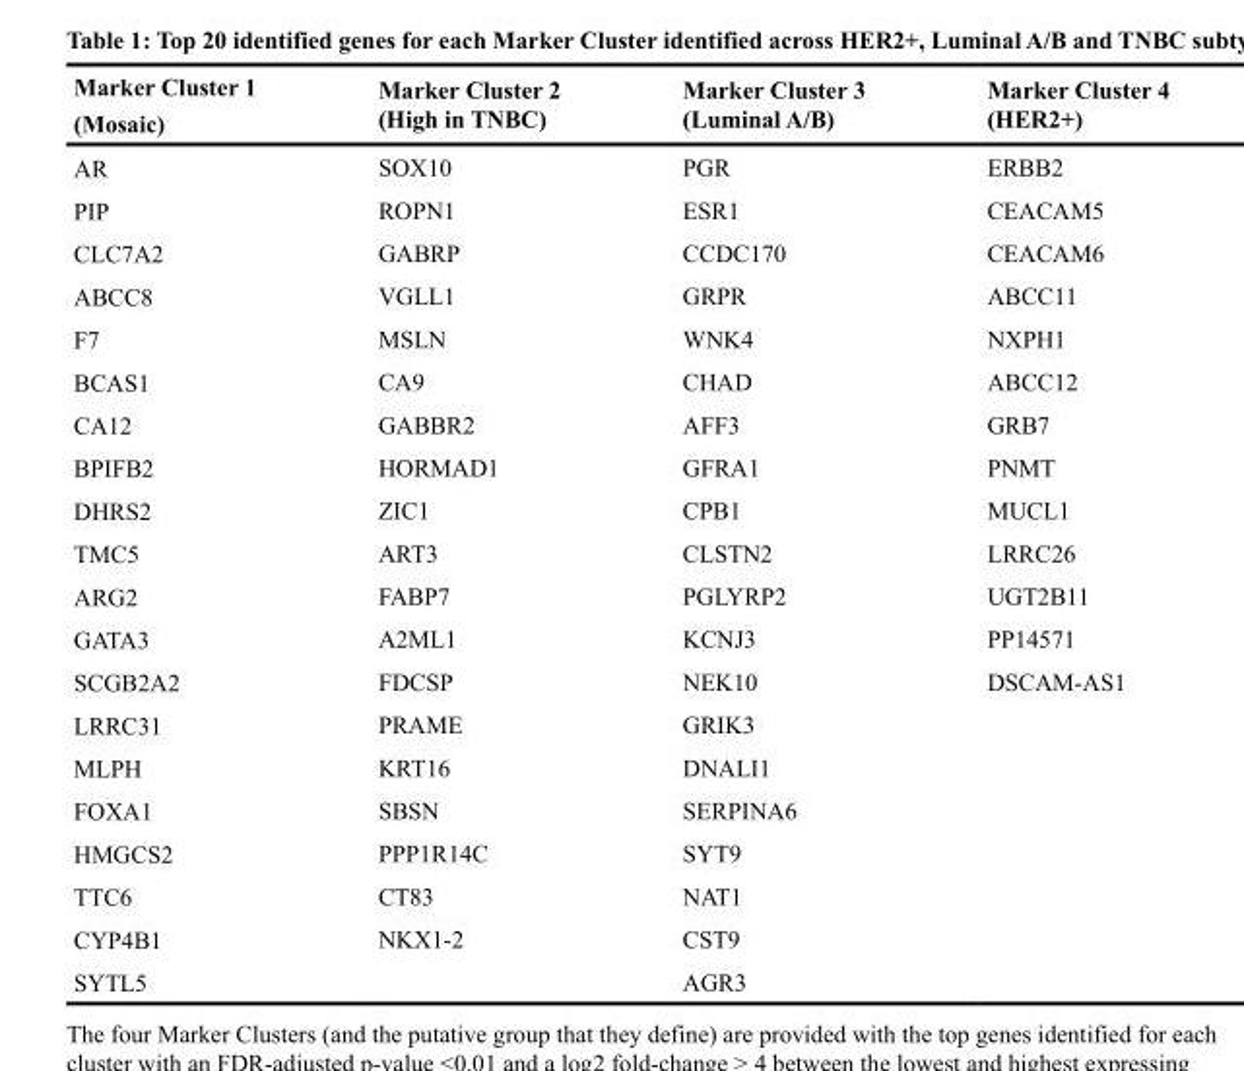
<table><thead><tr><td>Marker Cluster 1 (Mosaic)</td><td>Marker Cluster 2 (High in TNBC)</td><td>Marker Cluster 3 (Luminal A/B)</td><td>Marker Cluster 4 (HER2+)</td></tr></thead><tbody><tr><td>AR</td><td>SOX10</td><td>PGR</td><td>ERBB2</td></tr><tr><td>PIP</td><td>ROPN1</td><td>ESR1</td><td>CEACAM5</td></tr><tr><td>CLC7A2</td><td>GABRP</td><td>CCDC170</td><td>CEACAM6</td></tr><tr><td>ABCC8</td><td>VGLL1</td><td>GRPR</td><td>ABCC11</td></tr><tr><td>F7</td><td>MSLN</td><td>WNK4</td><td>NXPH1</td></tr><tr><td>BCAS1</td><td>CA9</td><td>CHAD</td><td>ABCC12</td></tr><tr><td>CA12</td><td>GABBR2</td><td>AFF3</td><td>GRB7</td></tr><tr><td>BPIFB2</td><td>HORMAD1</td><td>GFRA1</td><td>PNMT</td></tr><tr><td>DHRS2</td><td>ZIC1</td><td>CPB1</td><td>MUCL1</td></tr><tr><td>TMC5</td><td>ART3</td><td>CLSTN2</td><td>LRRC26</td></tr><tr><td>ARG2</td><td>FABP7</td><td>PGLYRP2</td><td>UGT2B11</td></tr><tr><td>GATA3</td><td>A2ML1</td><td>KCNJ3</td><td>PP14571</td></tr><tr><td>SCGB2A2</td><td>FDCSP</td><td>NEK10</td><td>DSCAM-AS1</td></tr><tr><td>LRRC31</td><td>PRAME</td><td>GRIK3</td><td></td></tr><tr><td>MLPH</td><td>KRT16</td><td>DNALI1</td><td></td></tr><tr><td>FOXA1</td><td>SBSN</td><td>SERPINA6</td><td></td></tr><tr><td>HMGCS2</td><td>PPP1R14C</td><td>SYT9</td><td></td></tr><tr><td>TTC6</td><td>CT83</td><td>NAT1</td><td></td></tr><tr><td>CYP4B1</td><td>NKX1-2</td><td>CST9</td><td></td></tr><tr><td>SYTL5</td><td></td><td>AGR3</td><td></td></tr></tbody></table>